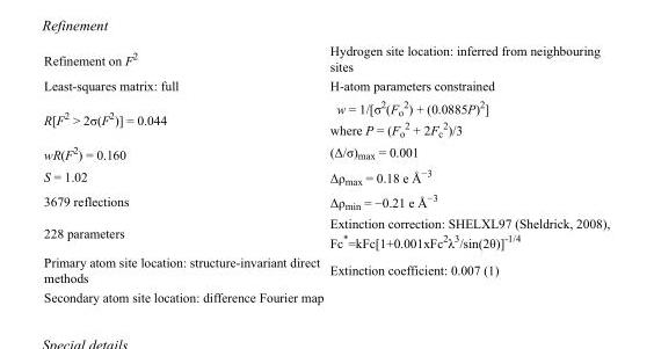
<table><tbody><tr><td>Refinement on F<sup>2</sup></td><td>Hydrogen site location: inferred from neighbouring sites</td></tr><tr><td>Least-squares matrix: full</td><td>H-atom parameters constrained</td></tr><tr><td>R[F<sup>2</sup> &gt; 2σ(F<sup>2</sup>)] = 0.044</td><td>w = 1/[σ<sup>2</sup>(F<sub>o</sub> <sup>2</sup>) + (0.0885P)<sup>2</sup>] where P = (F<sub>o</sub> <sup>2</sup> + 2F<sub>c</sub> <sup>2</sup>)/3</td></tr><tr><td>wR(F<sup>2</sup>) = 0.160</td><td>(Δ/σ)<sub>max</sub> = 0.001</td></tr><tr><td>S = 1.02</td><td>Δρ<sub>max</sub> = 0.18 e Å<sup>−3</sup></td></tr><tr><td>3679 reflections</td><td>Δρ<sub>min</sub> = −0.21 e Å<sup>−3</sup></td></tr><tr><td>228 parameters</td><td>Extinction correction: SHELXL97 (Sheldrick, 2008), Fc*=kFc[1+0.001xFc<sup>2</sup>λ<sup>3</sup>/sin(2θ)]<sup>-1/4</sup></td></tr><tr><td>Primary atom site location: structure-invariant direct methods</td><td>Extinction coefficient: 0.007 (1)</td></tr><tr><td>Secondary atom site location: difference Fourier map</td><td></td></tr></tbody></table>